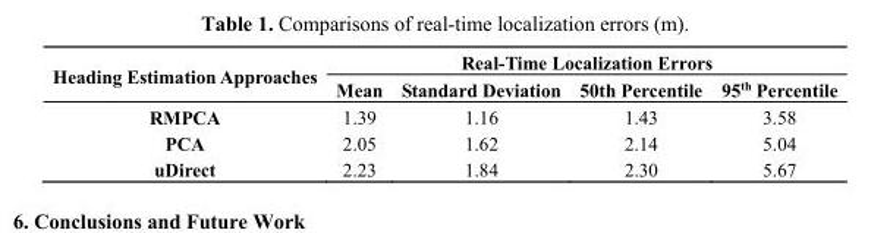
<table><thead><tr><td rowspan="2">Heading Estimation Approaches</td><td colspan="4">Real-Time Localization Errors</td></tr><tr><td>Mean</td><td>Standard Deviation</td><td>50th Percentile</td><td>95<sup>th</sup> Percentile</td></tr></thead><tbody><tr><td>RMPCA</td><td>1.39</td><td>1.16</td><td>1.43</td><td>3.58</td></tr><tr><td>PCA</td><td>2.05</td><td>1.62</td><td>2.14</td><td>5.04</td></tr><tr><td>uDirect</td><td>2.23</td><td>1.84</td><td>2.30</td><td>5.67</td></tr></tbody></table>